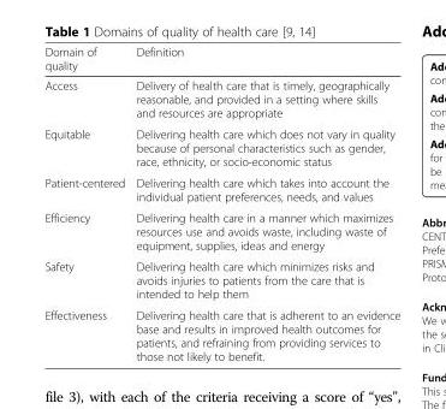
<table><thead><tr><td>Domain of quality</td><td>Definition</td></tr></thead><tbody><tr><td>Access</td><td>Delivery of health care that is timely, geographically reasonable, and provided in a setting where skills and resources are appropriate</td></tr><tr><td>Equitable</td><td>Delivering health care which does not vary in quality because of personal characteristics such as gender, race, ethnicity, or socio-economic status</td></tr><tr><td>Patient-centered</td><td>Delivering health care which takes into account the individual patient preferences, needs, and values</td></tr><tr><td>Efficiency</td><td>Delivering health care in a manner which maximizes resources use and avoids waste, including waste of equipment, supplies, ideas and energy</td></tr><tr><td>Safety</td><td>Delivering health care which minimizes risks and avoids injuries to patients from the care that is intended to help them</td></tr><tr><td>Effectiveness</td><td>Delivering health care that is adherent to an evidence base and results in improved health outcomes for patients, and refraining from providing services to those not likely to benefit.</td></tr></tbody></table>